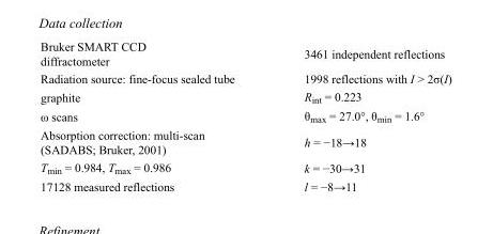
<table><tbody><tr><td>Bruker SMART CCD diffractometer</td><td>3461 independent reflections</td></tr><tr><td>Radiation source: fine-focus sealed tube</td><td>1998 reflections with I &gt; 2σ(I)</td></tr><tr><td>graphite</td><td>R<sub>int</sub> = 0.223</td></tr><tr><td>ω scans</td><td>θ<sub>max</sub> = 27.0°, θ<sub>min</sub> = 1.6°</td></tr><tr><td>Absorption correction: multi-scan (SADABS; Bruker, 2001)</td><td>h = −18→18</td></tr><tr><td>T<sub>min</sub> = 0.984, T<sub>max</sub> = 0.986</td><td>k = −30→31</td></tr><tr><td>17128 measured reflections</td><td>l = −8→11</td></tr></tbody></table>